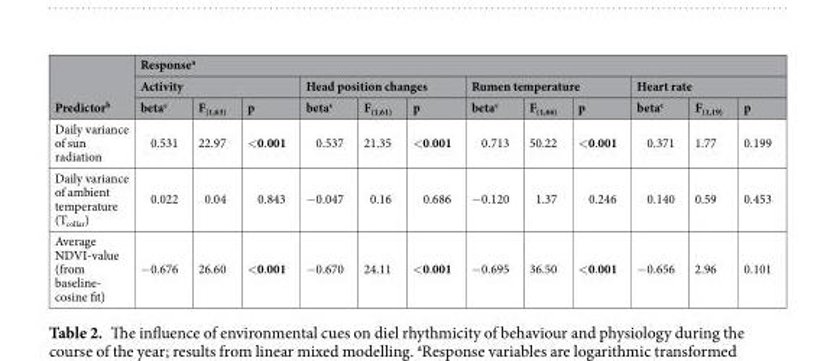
<table><thead><tr><td rowspan="3">Predictor<sup>b</sup></td><td colspan="12">Response<sup>a</sup></td></tr><tr><td colspan="3">Activity</td><td colspan="3">Head position changes</td><td colspan="3">Rumen temperature</td><td colspan="3">Heart rate</td></tr><tr><td>beta<sup>c</sup></td><td>F<sub>(1,63)</sub></td><td>p</td><td>beta<sup>c</sup></td><td>F<sub>(1,61)</sub></td><td>p</td><td>beta<sup>c</sup></td><td>F<sub>(1,66)</sub></td><td>p</td><td>beta<sup>c</sup></td><td>F<sub>(1,19)</sub></td><td>p</td></tr></thead><tbody><tr><td>Daily variance of sun radiation</td><td>0.531</td><td>22.97</td><td>&lt;0.001</td><td>0.537</td><td>21.35</td><td>&lt;0.001</td><td>0.713</td><td>50.22</td><td>&lt;0.001</td><td>0.371</td><td>1.77</td><td>0.199</td></tr><tr><td>Daily variance of ambient temperature (T<sub>collar</sub>)</td><td>0.022</td><td>0.04</td><td>0.843</td><td>−0.047</td><td>0.16</td><td>0.686</td><td>−0.120</td><td>1.37</td><td>0.246</td><td>0.140</td><td>0.59</td><td>0.453</td></tr><tr><td>Average NDVI-value (from baseline- cosine fit)</td><td>−0.676</td><td>26.60</td><td>&lt;0.001</td><td>−0.670</td><td>24.11</td><td>&lt;0.001</td><td>−0.695</td><td>36.50</td><td>&lt;0.001</td><td>−0.656</td><td>2.96</td><td>0.101</td></tr></tbody></table>